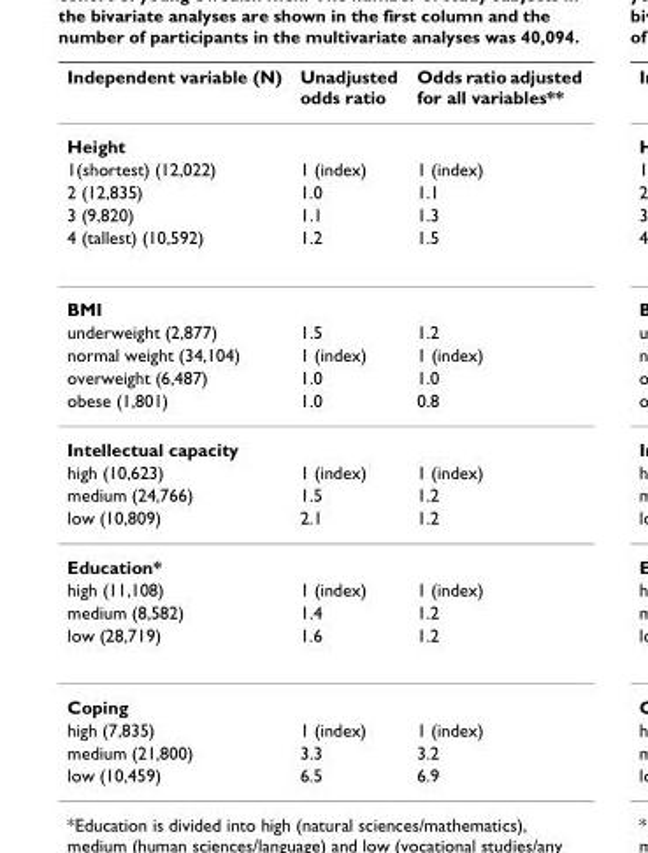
<table><thead><tr><td>Independent variable (N)</td><td>Unadjusted odds ratio</td><td>Odds ratio adjusted for all variables**</td></tr></thead><tbody><tr><td colspan="3">Height</td></tr><tr><td>1(shortest) (12,022)</td><td>1 (index)</td><td>1 (index)</td></tr><tr><td>2 (12,835)</td><td>1.0</td><td>1.1</td></tr><tr><td>3 (9,820)</td><td>1.1</td><td>1.3</td></tr><tr><td>4 (tallest) (10,592)</td><td>1.2</td><td>1.5</td></tr><tr><td colspan="3">BMI</td></tr><tr><td>underweight (2,877)</td><td>1.5</td><td>1.2</td></tr><tr><td>normal weight (34,104)</td><td>1 (index)</td><td>1 (index)</td></tr><tr><td>overweight (6,487)</td><td>1.0</td><td>1.0</td></tr><tr><td>obese (1,801)</td><td>1.0</td><td>0.8</td></tr><tr><td colspan="3">Intellectual capacity</td></tr><tr><td>high (10,623)</td><td>1 (index)</td><td>1 (index)</td></tr><tr><td>medium (24,766)</td><td>1.5</td><td>1.2</td></tr><tr><td>low (10,809)</td><td>2.1</td><td>1.2</td></tr><tr><td colspan="3">Education*</td></tr><tr><td>high (11,108)</td><td>1 (index)</td><td>1 (index)</td></tr><tr><td>medium (8,582)</td><td>1.4</td><td>1.2</td></tr><tr><td>low (28,719)</td><td>1.6</td><td>1.2</td></tr><tr><td colspan="3">Coping</td></tr><tr><td>high (7,835)</td><td>1 (index)</td><td>1 (index)</td></tr><tr><td>medium (21,800)</td><td>3.3</td><td>3.2</td></tr><tr><td>low (10,459)</td><td>6.5</td><td>6.9</td></tr></tbody></table>